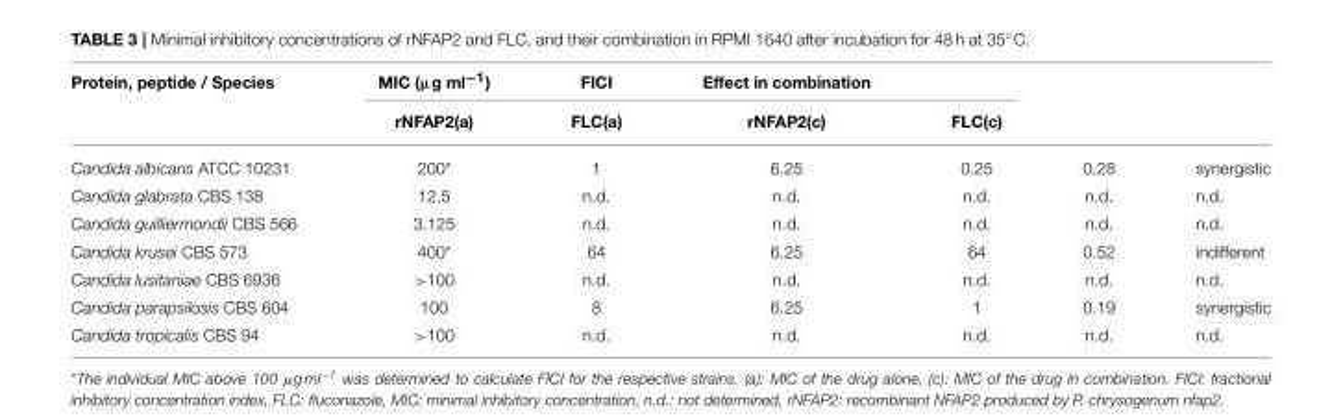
<table><thead><tr><td rowspan="2">Protein, peptide / Species</td><td rowspan="2">MIC (µg ml<sup>−1</sup>) rNFAP2(a)</td><td rowspan="2">FICI FLC(a)</td><td rowspan="2">Effect in combination rNFAP2(c)</td><td rowspan="2">FLC(c)</td><td rowspan="2"></td><td rowspan="2"></td></tr><tr></tr></thead><tbody><tr><td>Candida albicans ATCC 10231</td><td>200*</td><td>1</td><td>6.25</td><td>0.25</td><td>0.28</td><td>synergistic</td></tr><tr><td>Candida glabrata CBS 138</td><td>12.5</td><td>n.d.</td><td>n.d.</td><td>n.d.</td><td>n.d.</td><td>n.d.</td></tr><tr><td>Candida guilliermondii CBS 566</td><td>3.125</td><td>n.d.</td><td>n.d.</td><td>n.d.</td><td>n.d.</td><td>n.d.</td></tr><tr><td>Candida krusei CBS 573</td><td>400*</td><td>64</td><td>6.25</td><td>64</td><td>0.52</td><td>indifferent</td></tr><tr><td>Candida lusitaniae CBS 6936</td><td>&gt;100</td><td>n.d.</td><td>n.d.</td><td>n.d.</td><td>n.d.</td><td>n.d.</td></tr><tr><td>Candida parapsilosis CBS 604</td><td>100</td><td>8</td><td>6.25</td><td>1</td><td>0.19</td><td>synergistic</td></tr><tr><td>Candida tropicalis CBS 94</td><td>&gt;100</td><td>n.d.</td><td>n.d.</td><td>n.d.</td><td>n.d.</td><td>n.d.</td></tr></tbody></table>